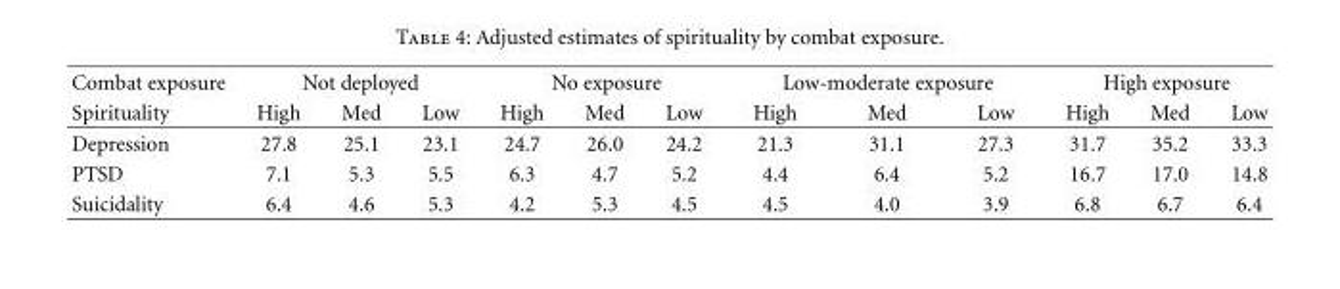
<table><thead><tr><td rowspan="2">Combat exposure Spirituality</td><td colspan="3">Not deployed</td><td colspan="3">No exposure</td><td colspan="3">Low-moderate exposure</td><td colspan="3">High exposure</td></tr><tr><td>High</td><td>Med</td><td>Low</td><td>High</td><td>Med</td><td>Low</td><td>High</td><td>Med</td><td>Low</td><td>High</td><td>Med</td><td>Low</td></tr></thead><tbody><tr><td>Depression</td><td>27.8</td><td>25.1</td><td>23.1</td><td>24.7</td><td>26.0</td><td>24.2</td><td>21.3</td><td>31.1</td><td>27.3</td><td>31.7</td><td>35.2</td><td>33.3</td></tr><tr><td>PTSD</td><td>7.1</td><td>5.3</td><td>5.5</td><td>6.3</td><td>4.7</td><td>5.2</td><td>4.4</td><td>6.4</td><td>5.2</td><td>16.7</td><td>17.0</td><td>14.8</td></tr><tr><td>Suicidality</td><td>6.4</td><td>4.6</td><td>5.3</td><td>4.2</td><td>5.3</td><td>4.5</td><td>4.5</td><td>4.0</td><td>3.9</td><td>6.8</td><td>6.7</td><td>6.4</td></tr></tbody></table>